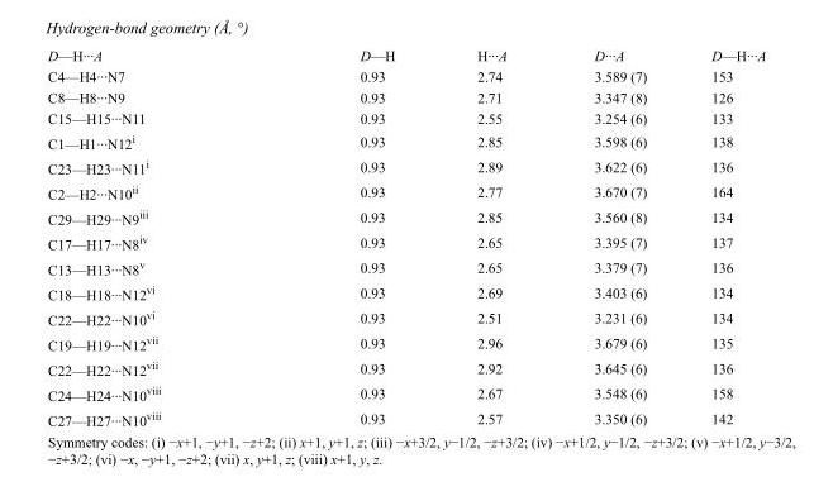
<table><tbody><tr><td>D—H···A</td><td>D—H</td><td>H···A</td><td>D···A</td><td>D—H···A</td></tr><tr><td>C4—H4···N7</td><td>0.93</td><td>2.74</td><td>3.589 (7)</td><td>153</td></tr><tr><td>C8—H8···N9</td><td>0.93</td><td>2.71</td><td>3.347 (8)</td><td>126</td></tr><tr><td>C15—H15···N11</td><td>0.93</td><td>2.55</td><td>3.254 (6)</td><td>133</td></tr><tr><td>C1—H1···N12<sup>i</sup></td><td>0.93</td><td>2.85</td><td>3.598 (6)</td><td>138</td></tr><tr><td>C23—H23···N11<sup>i</sup></td><td>0.93</td><td>2.89</td><td>3.622 (6)</td><td>136</td></tr><tr><td>C2—H2···N10<sup>ii</sup></td><td>0.93</td><td>2.77</td><td>3.670 (7)</td><td>164</td></tr><tr><td>C29—H29···N9<sup>iii</sup></td><td>0.93</td><td>2.85</td><td>3.560 (8)</td><td>134</td></tr><tr><td>C17—H17···N8<sup>iv</sup></td><td>0.93</td><td>2.65</td><td>3.395 (7)</td><td>137</td></tr><tr><td>C13—H13···N8<sup>v</sup></td><td>0.93</td><td>2.65</td><td>3.379 (7)</td><td>136</td></tr><tr><td>C18—H18···N12<sup>vi</sup></td><td>0.93</td><td>2.69</td><td>3.403 (6)</td><td>134</td></tr><tr><td>C22—H22···N10<sup>vi</sup></td><td>0.93</td><td>2.51</td><td>3.231 (6)</td><td>134</td></tr><tr><td>C19—H19···N12<sup>vii</sup></td><td>0.93</td><td>2.96</td><td>3.679 (6)</td><td>135</td></tr><tr><td>C22—H22···N12<sup>vii</sup></td><td>0.93</td><td>2.92</td><td>3.645 (6)</td><td>136</td></tr><tr><td>C24—H24···N10<sup>viii</sup></td><td>0.93</td><td>2.67</td><td>3.548 (6)</td><td>158</td></tr><tr><td>C27—H27···N10<sup>viii</sup></td><td>0.93</td><td>2.57</td><td>3.350 (6)</td><td>142</td></tr></tbody></table>